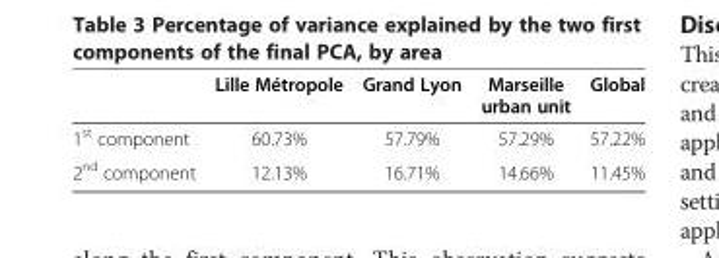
<table><thead><tr><td></td><td>Lille Métropole</td><td>Grand Lyon</td><td>Marseille urban unit</td><td>Global</td></tr></thead><tbody><tr><td>1<sup>st</sup> component</td><td>60.73%</td><td>57.79%</td><td>57.29%</td><td>57.22%</td></tr><tr><td>2<sup>nd</sup> component</td><td>12.13%</td><td>16.71%</td><td>14.66%</td><td>11.45%</td></tr></tbody></table>